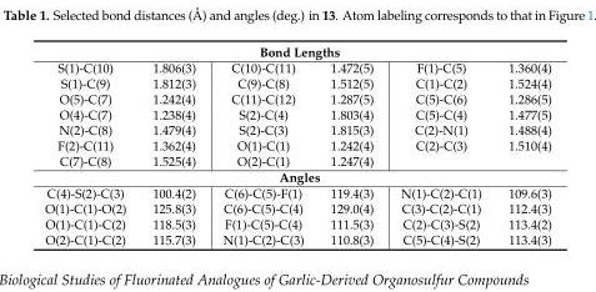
<table><tbody><tr><td colspan="6">Bond Lengths</td></tr><tr><td>S(1)-C(10)</td><td>1.806(3)</td><td>C(10)-C(11)</td><td>1.472(5)</td><td>F(1)-C(5)</td><td>1.360(4)</td></tr><tr><td>S(1)-C(9)</td><td>1.812(3)</td><td>C(9)-C(8)</td><td>1.512(5)</td><td>C(1)-C(2)</td><td>1.524(4)</td></tr><tr><td>O(5)-C(7)</td><td>1.242(4)</td><td>C(11)-C(12)</td><td>1.287(5)</td><td>C(5)-C(6)</td><td>1.286(5)</td></tr><tr><td>O(4)-C(7)</td><td>1.238(4)</td><td>S(2)-C(4)</td><td>1.803(4)</td><td>C(5)-C(4)</td><td>1.477(5)</td></tr><tr><td>N(2)-C(8)</td><td>1.479(4)</td><td>S(2)-C(3)</td><td>1.815(3)</td><td>C(2)-N(1)</td><td>1.488(4)</td></tr><tr><td>F(2)-C(11)</td><td>1.362(4)</td><td>O(1)-C(1)</td><td>1.242(4)</td><td>C(2)-C(3)</td><td>1.510(4)</td></tr><tr><td>C(7)-C(8)</td><td>1.525(4)</td><td>O(2)-C(1)</td><td>1.247(4)</td><td></td><td></td></tr><tr><td colspan="6">Angles</td></tr><tr><td>C(4)-S(2)-C(3)</td><td>100.4(2)</td><td>C(6)-C(5)-F(1)</td><td>119.4(3)</td><td>N(1)-C(2)-C(1)</td><td>109.6(3)</td></tr><tr><td>O(1)-C(1)-O(2)</td><td>125.8(3)</td><td>C(6)-C(5)-C(4)</td><td>129.0(4)</td><td>C(3)-C(2)-C(1)</td><td>112.4(3)</td></tr><tr><td>O(1)-C(1)-C(2)</td><td>118.5(3)</td><td>F(1)-C(5)-C(4)</td><td>111.5(3)</td><td>C(2)-C(3)-S(2)</td><td>113.4(2)</td></tr><tr><td>O(2)-C(1)-C(2)</td><td>115.7(3)</td><td>N(1)-C(2)-C(3)</td><td>110.8(3)</td><td>C(5)-C(4)-S(2)</td><td>113.4(3)</td></tr></tbody></table>